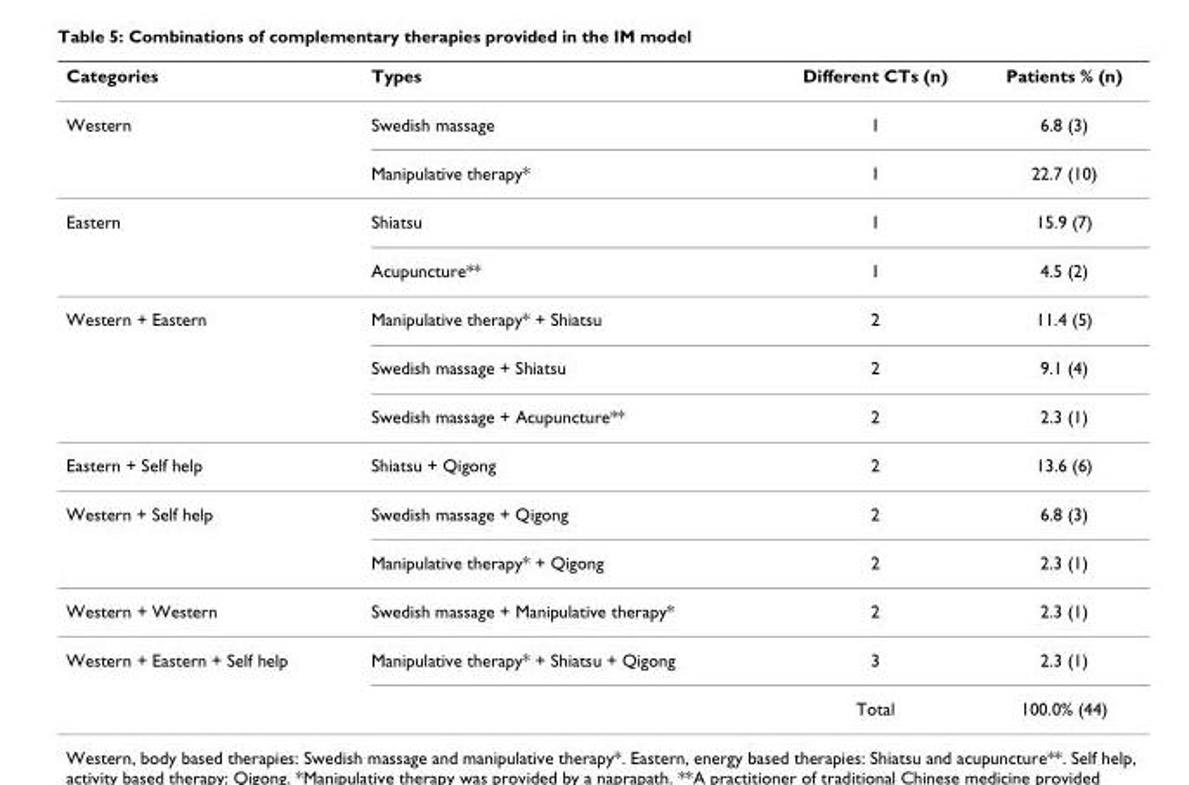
<table><thead><tr><td>Categories</td><td>Types</td><td>Different CTs (n)</td><td>Patients % (n)</td></tr></thead><tbody><tr><td rowspan="2">Western</td><td>Swedish massage</td><td>1</td><td>6.8 (3)</td></tr><tr><td>Manipulative therapy*</td><td>1</td><td>22.7 (10)</td></tr><tr><td rowspan="2">Eastern</td><td>Shiatsu</td><td>1</td><td>15.9 (7)</td></tr><tr><td>Acupuncture**</td><td>1</td><td>4.5 (2)</td></tr><tr><td rowspan="3">Western + Eastern</td><td>Manipulative therapy* + Shiatsu</td><td>2</td><td>11.4 (5)</td></tr><tr><td>Swedish massage + Shiatsu</td><td>2</td><td>9.1 (4)</td></tr><tr><td>Swedish massage + Acupuncture**</td><td>2</td><td>2.3 (1)</td></tr><tr><td>Eastern + Self help</td><td>Shiatsu + Qigong</td><td>2</td><td>13.6 (6)</td></tr><tr><td rowspan="2">Western + Self help</td><td>Swedish massage + Qigong</td><td>2</td><td>6.8 (3)</td></tr><tr><td>Manipulative therapy* + Qigong</td><td>2</td><td>2.3 (1)</td></tr><tr><td>Western + Western</td><td>Swedish massage + Manipulative therapy*</td><td>2</td><td>2.3 (1)</td></tr><tr><td rowspan="2">Western + Eastern + Self help</td><td>Manipulative therapy* + Shiatsu + Qigong</td><td>3</td><td>2.3 (1)</td></tr><tr><td></td><td>Total</td><td>100.0% (44)</td></tr></tbody></table>